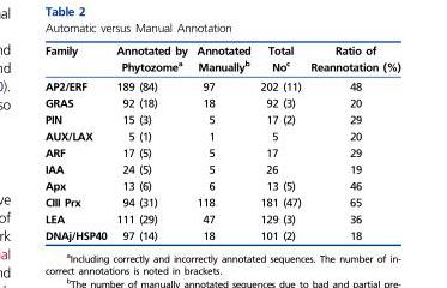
<table><thead><tr><td>Family</td><td>Annotated by Phytozome<sup>a</sup></td><td>Annotated Manually<sup>b</sup></td><td>Total No<sup>c</sup></td><td>Ratio of Reannotation (%)</td></tr></thead><tbody><tr><td>AP2/ERF</td><td>189 (84)</td><td>97</td><td>202 (11)</td><td>48</td></tr><tr><td>GRAS</td><td>92 (18)</td><td>18</td><td>92 (3)</td><td>20</td></tr><tr><td>PIN</td><td>15 (3)</td><td>5</td><td>17 (2)</td><td>29</td></tr><tr><td>AUX/LAX</td><td>5 (1)</td><td>1</td><td>5</td><td>20</td></tr><tr><td>ARF</td><td>17 (5)</td><td>5</td><td>17</td><td>29</td></tr><tr><td>IAA</td><td>24 (5)</td><td>5</td><td>26</td><td>19</td></tr><tr><td>Apx</td><td>13 (6)</td><td>6</td><td>13 (5)</td><td>46</td></tr><tr><td>CIII Prx</td><td>94 (31)</td><td>118</td><td>181 (47)</td><td>65</td></tr><tr><td>LEA</td><td>111 (29)</td><td>47</td><td>129 (3)</td><td>36</td></tr><tr><td>DNAj/HSP40</td><td>97 (14)</td><td>18</td><td>101 (2)</td><td>18</td></tr></tbody></table>